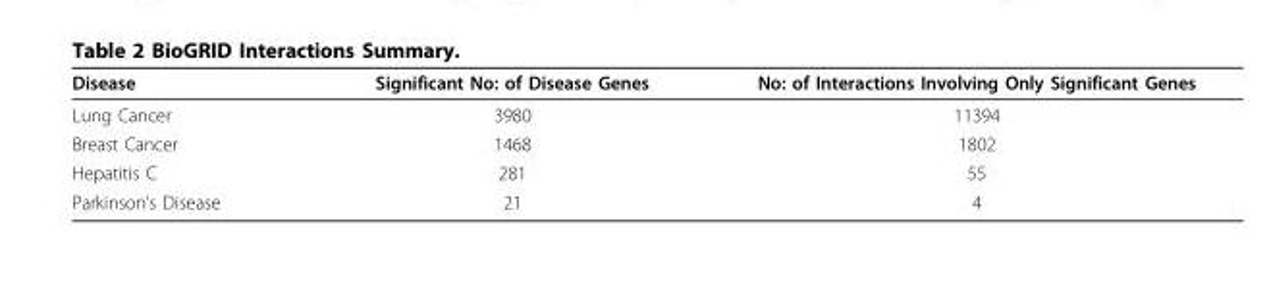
<table><thead><tr><td>Disease</td><td>Significant No: of Disease Genes</td><td>No: of Interactions Involving Only Significant Genes</td></tr></thead><tbody><tr><td>Lung Cancer</td><td>3980</td><td>11394</td></tr><tr><td>Breast Cancer</td><td>1468</td><td>1802</td></tr><tr><td>Hepatitis C</td><td>281</td><td>55</td></tr><tr><td>Parkinson’s Disease</td><td>21</td><td>4</td></tr></tbody></table>